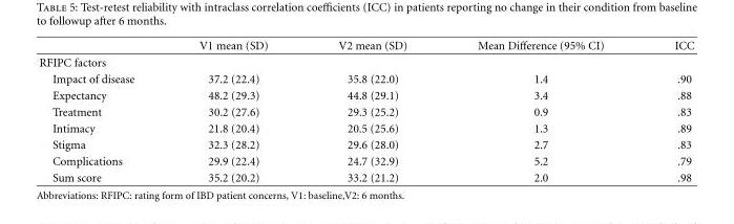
<table><thead><tr><td></td><td>V1 mean (SD)</td><td>V2 mean (SD)</td><td>Mean Difference (95% CI)</td><td>ICC</td></tr></thead><tbody><tr><td colspan="5">RFIPC factors</td></tr><tr><td>Impact of disease</td><td>37.2 (22.4)</td><td>35.8 (22.0)</td><td>1.4</td><td>.90</td></tr><tr><td>Expectancy</td><td>48.2 (29.3)</td><td>44.8 (29.1)</td><td>3.4</td><td>.88</td></tr><tr><td>Treatment</td><td>30.2 (27.6)</td><td>29.3 (25.2)</td><td>0.9</td><td>.83</td></tr><tr><td>Intimacy</td><td>21.8 (20.4)</td><td>20.5 (25.6)</td><td>1.3</td><td>.89</td></tr><tr><td>Stigma</td><td>32.3 (28.2)</td><td>29.6 (28.0)</td><td>2.7</td><td>.83</td></tr><tr><td>Complications</td><td>29.9 (22.4)</td><td>24.7 (32.9)</td><td>5.2</td><td>.79</td></tr><tr><td>Sum score</td><td>35.2 (20.2)</td><td>33.2 (21.2)</td><td>2.0</td><td>.98</td></tr></tbody></table>